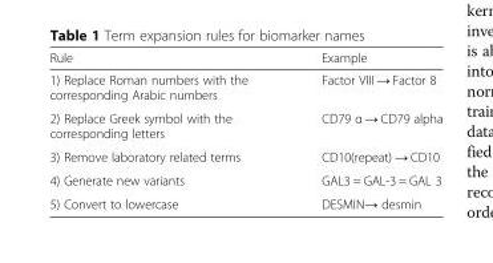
<table><thead><tr><td>Rule</td><td>Example</td></tr></thead><tbody><tr><td>1) Replace Roman numbers with the corresponding Arabic numbers</td><td>Factor VIII → Factor 8</td></tr><tr><td>2) Replace Greek symbol with the corresponding letters</td><td>CD79 α → CD79 alpha</td></tr><tr><td>3) Remove laboratory related terms</td><td>CD10(repeat) → CD10</td></tr><tr><td>4) Generate new variants</td><td>GAL3 = GAL-3 = GAL 3</td></tr><tr><td>5) Convert to lowercase</td><td>DESMIN→ desmin</td></tr></tbody></table>